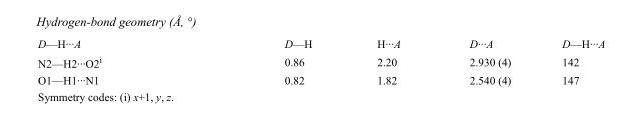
<table><tbody><tr><td>D—H···A</td><td>D—H</td><td>H···A</td><td>D···A</td><td>D—H···A</td></tr><tr><td>N2—H2···O2<sup>i</sup></td><td>0.86</td><td>2.20</td><td>2.930 (4)</td><td>142</td></tr><tr><td>O1—H1···N1</td><td>0.82</td><td>1.82</td><td>2.540 (4)</td><td>147</td></tr></tbody></table>